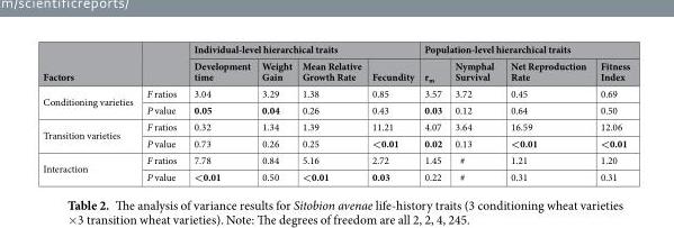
<table><thead><tr><td rowspan="2">Factors</td><td rowspan="2"></td><td colspan="4">Individual-level hierarchical traits</td><td colspan="4">Population-level hierarchical traits</td></tr><tr><td>Development time</td><td>Weight Gain</td><td>Mean Relative Growth Rate</td><td>Fecundity</td><td>r<sub>m</sub></td><td>Nymphal Survival</td><td>Net Reproduction Rate</td><td>Fitness Index</td></tr></thead><tbody><tr><td rowspan="2">Conditioning varieties</td><td>F ratios</td><td>3.04</td><td>3.29</td><td>1.38</td><td>0.85</td><td>3.57</td><td>3.72</td><td>0.45</td><td>0.69</td></tr><tr><td>P value</td><td>0.05</td><td>0.04</td><td>0.26</td><td>0.43</td><td>0.03</td><td>0.12</td><td>0.64</td><td>0.50</td></tr><tr><td rowspan="2">Transition varieties</td><td>F ratios</td><td>0.32</td><td>1.34</td><td>1.39</td><td>11.21</td><td>4.07</td><td>3.64</td><td>16.59</td><td>12.06</td></tr><tr><td>P value</td><td>0.73</td><td>0.26</td><td>0.25</td><td>&lt;0.01</td><td>0.02</td><td>0.13</td><td>&lt;0.01</td><td>&lt;0.01</td></tr><tr><td rowspan="2">Interaction</td><td>F ratios</td><td>7.78</td><td>0.84</td><td>5.16</td><td>2.72</td><td>1.45</td><td>#</td><td>1.21</td><td>1.20</td></tr><tr><td>P value</td><td>&lt;0.01</td><td>0.50</td><td>&lt;0.01</td><td>0.03</td><td>0.22</td><td>#</td><td>0.31</td><td>0.31</td></tr></tbody></table>